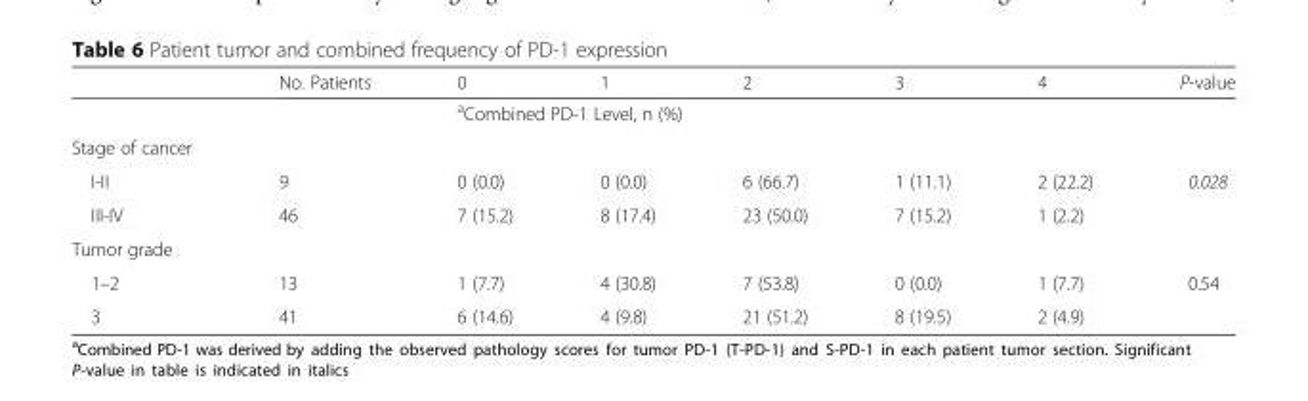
<table><thead><tr><td></td><td>No. Patients</td><td>0</td><td>1</td><td>2</td><td>3</td><td>4</td><td>P-value</td></tr></thead><tbody><tr><td></td><td></td><td colspan="5"><sup>a</sup>Combined PD-1 Level, n (%)</td><td></td></tr><tr><td colspan="8">Stage of cancer</td></tr><tr><td>I-II</td><td>9</td><td>0 (0.0)</td><td>0 (0.0)</td><td>6 (66.7)</td><td>1 (11.1)</td><td>2 (22.2)</td><td rowspan="2">0.028</td></tr><tr><td>III-IV</td><td>46</td><td>7 (15.2)</td><td>8 (17.4)</td><td>23 (50.0)</td><td>7 (15.2)</td><td>1 (2.2)</td></tr><tr><td colspan="8">Tumor grade</td></tr><tr><td>1–2</td><td>13</td><td>1 (7.7)</td><td>4 (30.8)</td><td>7 (53.8)</td><td>0 (0.0)</td><td>1 (7.7)</td><td rowspan="2">0.54</td></tr><tr><td>3</td><td>41</td><td>6 (14.6)</td><td>4 (9.8)</td><td>21 (51.2)</td><td>8 (19.5)</td><td>2 (4.9)</td></tr></tbody></table>